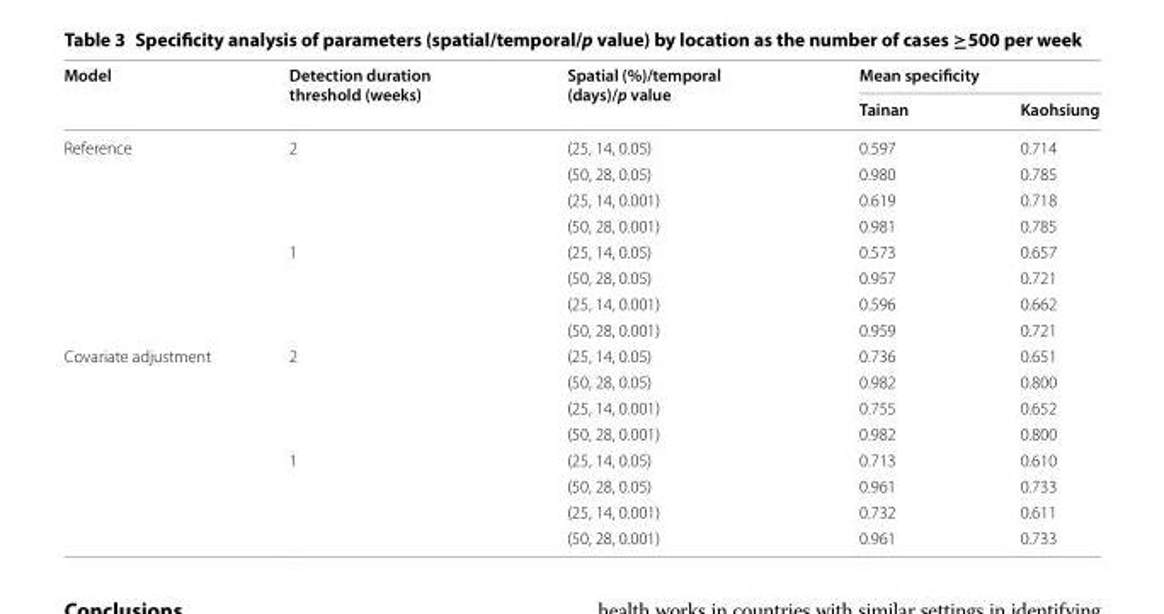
<table><thead><tr><td rowspan="2">Model</td><td rowspan="2">Detection duration threshold (weeks)</td><td rowspan="2">Spatial (%)/temporal (days)/p value</td><td colspan="2">Mean specificity</td></tr><tr><td>Tainan</td><td>Kaohsiung</td></tr></thead><tbody><tr><td rowspan="8">Reference</td><td rowspan="4">2</td><td>(25, 14, 0.05)</td><td>0.597</td><td>0.714</td></tr><tr><td>(50, 28, 0.05)</td><td>0.980</td><td>0.785</td></tr><tr><td>(25, 14, 0.001)</td><td>0.619</td><td>0.718</td></tr><tr><td>(50, 28, 0.001)</td><td>0.981</td><td>0.785</td></tr><tr><td rowspan="4">1</td><td>(25, 14, 0.05)</td><td>0.573</td><td>0.657</td></tr><tr><td>(50, 28, 0.05)</td><td>0.957</td><td>0.721</td></tr><tr><td>(25, 14, 0.001)</td><td>0.596</td><td>0.662</td></tr><tr><td>(50, 28, 0.001)</td><td>0.959</td><td>0.721</td></tr><tr><td rowspan="8">Covariate adjustment</td><td rowspan="4">2</td><td>(25, 14, 0.05)</td><td>0.736</td><td>0.651</td></tr><tr><td>(50, 28, 0.05)</td><td>0.982</td><td>0.800</td></tr><tr><td>(25, 14, 0.001)</td><td>0.755</td><td>0.652</td></tr><tr><td>(50, 28, 0.001)</td><td>0.982</td><td>0.800</td></tr><tr><td rowspan="4">1</td><td>(25, 14, 0.05)</td><td>0.713</td><td>0.610</td></tr><tr><td>(50, 28, 0.05)</td><td>0.961</td><td>0.733</td></tr><tr><td>(25, 14, 0.001)</td><td>0.732</td><td>0.611</td></tr><tr><td>(50, 28, 0.001)</td><td>0.961</td><td>0.733</td></tr></tbody></table>